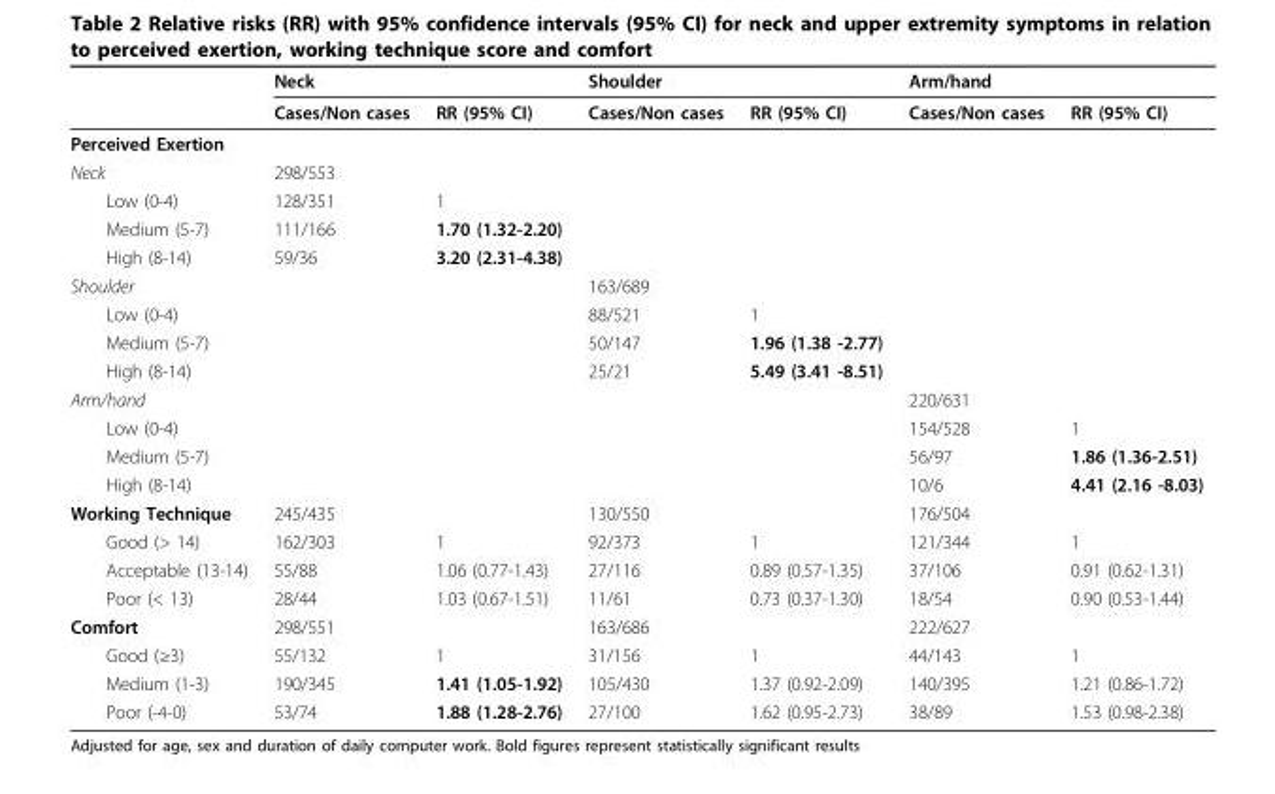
<table><thead><tr><td rowspan="2"></td><td rowspan="2">Neck Cases/Non cases</td><td rowspan="2">RR (95% CI)</td><td rowspan="2">Shoulder Cases/Non cases</td><td rowspan="2">RR (95% CI)</td><td rowspan="2">Arm/hand Cases/Non cases</td><td rowspan="2">RR (95% CI)</td></tr><tr></tr></thead><tbody><tr><td colspan="7">Perceived Exertion</td></tr><tr><td>Neck</td><td>298/553</td><td></td><td></td><td></td><td></td><td></td></tr><tr><td>Low (0-4)</td><td>128/351</td><td>1</td><td></td><td></td><td></td><td></td></tr><tr><td>Medium (5-7)</td><td>111/166</td><td>1.70 (1.32-2.20)</td><td></td><td></td><td></td><td></td></tr><tr><td>High (8-14)</td><td>59/36</td><td>3.20 (2.31-4.38)</td><td></td><td></td><td></td><td></td></tr><tr><td>Shoulder</td><td></td><td></td><td>163/689</td><td></td><td></td><td></td></tr><tr><td>Low (0-4)</td><td></td><td></td><td>88/521</td><td>1</td><td></td><td></td></tr><tr><td>Medium (5-7)</td><td></td><td></td><td>50/147</td><td>1.96 (1.38 -2.77)</td><td></td><td></td></tr><tr><td>High (8-14)</td><td></td><td></td><td>25/21</td><td>5.49 (3.41 -8.51)</td><td></td><td></td></tr><tr><td>Arm/hand</td><td></td><td></td><td></td><td></td><td>220/631</td><td></td></tr><tr><td>Low (0-4)</td><td></td><td></td><td></td><td></td><td>154/528</td><td>1</td></tr><tr><td>Medium (5-7)</td><td></td><td></td><td></td><td></td><td>56/97</td><td>1.86 (1.36-2.51)</td></tr><tr><td>High (8-14)</td><td></td><td></td><td></td><td></td><td>10/6</td><td>4.41 (2.16 -8.03)</td></tr><tr><td>Working Technique</td><td>245/435</td><td></td><td>130/550</td><td></td><td>176/504</td><td></td></tr><tr><td>Good (&gt; 14)</td><td>162/303</td><td>1</td><td>92/373</td><td>1</td><td>121/344</td><td>1</td></tr><tr><td>Acceptable (13-14)</td><td>55/88</td><td>1.06 (0.77-1.43)</td><td>27/116</td><td>0.89 (0.57-1.35)</td><td>37/106</td><td>0.91 (0.62-1.31)</td></tr><tr><td>Poor (&lt; 13)</td><td>28/44</td><td>1.03 (0.67-1.51)</td><td>11/61</td><td>0.73 (0.37-1.30)</td><td>18/54</td><td>0.90 (0.53-1.44)</td></tr><tr><td>Comfort</td><td>298/551</td><td></td><td>163/686</td><td></td><td>222/627</td><td></td></tr><tr><td>Good (≥3)</td><td>55/132</td><td>1</td><td>31/156</td><td>1</td><td>44/143</td><td>1</td></tr><tr><td>Medium (1-3)</td><td>190/345</td><td>1.41 (1.05-1.92)</td><td>105/430</td><td>1.37 (0.92-2.09)</td><td>140/395</td><td>1.21 (0.86-1.72)</td></tr><tr><td>Poor (-4-0)</td><td>53/74</td><td>1.88 (1.28-2.76)</td><td>27/100</td><td>1.62 (0.95-2.73)</td><td>38/89</td><td>1.53 (0.98-2.38)</td></tr></tbody></table>